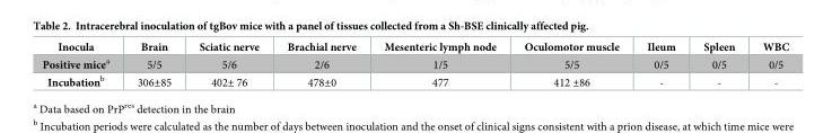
<table><thead><tr><td>Inocula</td><td>Brain</td><td>Sciatic nerve</td><td>Brachial nerve</td><td>Mesenteric lymph node</td><td>Oculomotor muscle</td><td>Ileum</td><td>Spleen</td><td>WBC</td></tr></thead><tbody><tr><td>Positive mice<sup>a</sup></td><td>5/5</td><td>5/6</td><td>2/6</td><td>1/5</td><td>5/5</td><td>0/5</td><td>0/5</td><td>0/5</td></tr><tr><td>Incubation<sup>b</sup></td><td>306±85</td><td>402± 76</td><td>478±0</td><td>477</td><td>412 ±86</td><td>-</td><td>-</td><td>-</td></tr></tbody></table>